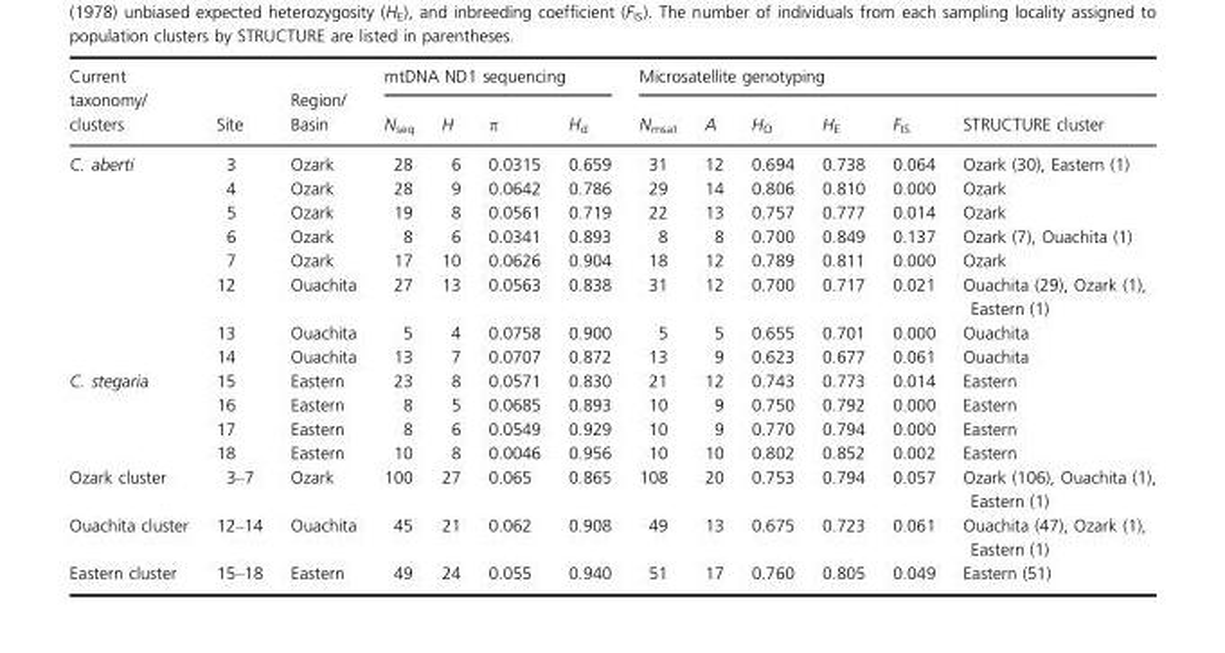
<table><thead><tr><td rowspan="2">Current taxonomy/ clusters</td><td rowspan="2">Site</td><td rowspan="2">Region/ Basin</td><td colspan="4">mtDNA ND1 sequencing</td><td colspan="6">Microsatellite genotyping</td></tr><tr><td>N<sub>seq</sub></td><td>H</td><td>π</td><td>H<sub>d</sub></td><td>N<sub>msat</sub></td><td>A</td><td>H<sub>O</sub></td><td>H<sub>E</sub></td><td>F<sub>IS</sub></td><td>STRUCTURE cluster</td></tr></thead><tbody><tr><td rowspan="8">C. aberti</td><td>3</td><td>Ozark</td><td>28</td><td>6</td><td>0.0315</td><td>0.659</td><td>31</td><td>12</td><td>0.694</td><td>0.738</td><td>0.064</td><td>Ozark (30), Eastern (1)</td></tr><tr><td>4</td><td>Ozark</td><td>28</td><td>9</td><td>0.0642</td><td>0.786</td><td>29</td><td>14</td><td>0.806</td><td>0.810</td><td>0.000</td><td>Ozark</td></tr><tr><td>5</td><td>Ozark</td><td>19</td><td>8</td><td>0.0561</td><td>0.719</td><td>22</td><td>13</td><td>0.757</td><td>0.777</td><td>0.014</td><td>Ozark</td></tr><tr><td>6</td><td>Ozark</td><td>8</td><td>6</td><td>0.0341</td><td>0.893</td><td>8</td><td>8</td><td>0.700</td><td>0.849</td><td>0.137</td><td>Ozark (7), Ouachita (1)</td></tr><tr><td>7</td><td>Ozark</td><td>17</td><td>10</td><td>0.0626</td><td>0.904</td><td>18</td><td>12</td><td>0.789</td><td>0.811</td><td>0.000</td><td>Ozark</td></tr><tr><td>12</td><td>Ouachita</td><td>27</td><td>13</td><td>0.0563</td><td>0.838</td><td>31</td><td>12</td><td>0.700</td><td>0.717</td><td>0.021</td><td>Ouachita (29), Ozark (1), Eastern (1)</td></tr><tr><td>13</td><td>Ouachita</td><td>5</td><td>4</td><td>0.0758</td><td>0.900</td><td>5</td><td>5</td><td>0.655</td><td>0.701</td><td>0.000</td><td>Ouachita</td></tr><tr><td>14</td><td>Ouachita</td><td>13</td><td>7</td><td>0.0707</td><td>0.872</td><td>13</td><td>9</td><td>0.623</td><td>0.677</td><td>0.061</td><td>Ouachita</td></tr><tr><td rowspan="4">C. stegaria</td><td>15</td><td>Eastern</td><td>23</td><td>8</td><td>0.0571</td><td>0.830</td><td>21</td><td>12</td><td>0.743</td><td>0.773</td><td>0.014</td><td>Eastern</td></tr><tr><td>16</td><td>Eastern</td><td>8</td><td>5</td><td>0.0685</td><td>0.893</td><td>10</td><td>9</td><td>0.750</td><td>0.792</td><td>0.000</td><td>Eastern</td></tr><tr><td>17</td><td>Eastern</td><td>8</td><td>6</td><td>0.0549</td><td>0.929</td><td>10</td><td>9</td><td>0.770</td><td>0.794</td><td>0.000</td><td>Eastern</td></tr><tr><td>18</td><td>Eastern</td><td>10</td><td>8</td><td>0.0046</td><td>0.956</td><td>10</td><td>10</td><td>0.802</td><td>0.852</td><td>0.002</td><td>Eastern</td></tr><tr><td>Ozark cluster</td><td>3–7</td><td>Ozark</td><td>100</td><td>27</td><td>0.065</td><td>0.865</td><td>108</td><td>20</td><td>0.753</td><td>0.794</td><td>0.057</td><td>Ozark (106), Ouachita (1), Eastern (1)</td></tr><tr><td>Ouachita cluster</td><td>12–14</td><td>Ouachita</td><td>45</td><td>21</td><td>0.062</td><td>0.908</td><td>49</td><td>13</td><td>0.675</td><td>0.723</td><td>0.061</td><td>Ouachita (47), Ozark (1), Eastern (1)</td></tr><tr><td>Eastern cluster</td><td>15–18</td><td>Eastern</td><td>49</td><td>24</td><td>0.055</td><td>0.940</td><td>51</td><td>17</td><td>0.760</td><td>0.805</td><td>0.049</td><td>Eastern (51)</td></tr></tbody></table>